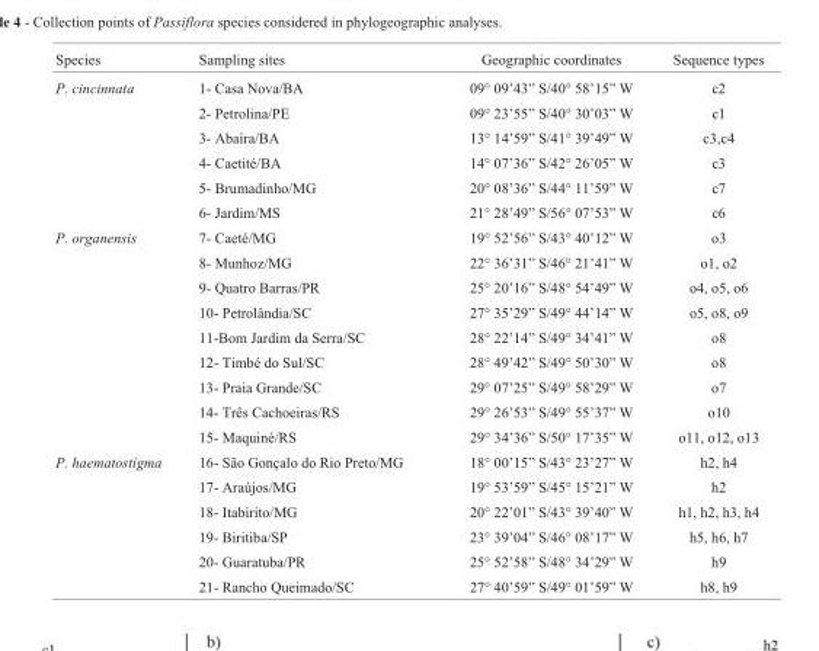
<table><thead><tr><td>Species</td><td>Sampling sites</td><td>Geographic coordinates</td><td>Sequence types</td></tr></thead><tbody><tr><td rowspan="6">P. cincinnata</td><td>1- Casa Nova/BA</td><td>09° 09’43” S/40° 58’15” W</td><td>c2</td></tr><tr><td>2- Petrolina/PE</td><td>09° 23’55” S/40° 30’03” W</td><td>c1</td></tr><tr><td>3- Abaíra/BA</td><td>13° 14’59” S/41° 39’49” W</td><td>c3,c4</td></tr><tr><td>4- Caetité/BA</td><td>14° 07’36” S/42° 26’05” W</td><td>c3</td></tr><tr><td>5- Brumadinho/MG</td><td>20° 08’36” S/44° 11’59” W</td><td>c7</td></tr><tr><td>6- Jardim/MS</td><td>21° 28’49” S/56° 07’53” W</td><td>c6</td></tr><tr><td rowspan="9">P. organensis</td><td>7- Caeté/MG</td><td>19° 52’56” S/43° 40’12” W</td><td>o3</td></tr><tr><td>8- Munhoz/MG</td><td>22° 36’31” S/46° 21’41” W</td><td>o1, o2</td></tr><tr><td>9- Quatro Barras/PR</td><td>25° 20’16” S/48° 54’49” W</td><td>o4, o5, o6</td></tr><tr><td>10- Petrolândia/SC</td><td>27° 35’29” S/49° 44’14” W</td><td>o5, o8, o9</td></tr><tr><td>11-Bom Jardim da Serra/SC</td><td>28° 22’14” S/49° 34’41” W</td><td>o8</td></tr><tr><td>12- Timbé do Sul/SC</td><td>28° 49’42” S/49° 50’30” W</td><td>o8</td></tr><tr><td>13- Praia Grande/SC</td><td>29° 07’25” S/49° 58’29” W</td><td>o7</td></tr><tr><td>14- Três Cachoeiras/RS</td><td>29° 26’53” S/49° 55’37” W</td><td>o10</td></tr><tr><td>15- Maquiné/RS</td><td>29° 34’36” S/50° 17’35” W</td><td>o11, o12, o13</td></tr><tr><td rowspan="6">P. haematostigma</td><td>16- São Gonçalo do Rio Preto/MG</td><td>18° 00’15” S/43° 23’27” W</td><td>h2, h4</td></tr><tr><td>17- Araújos/MG</td><td>19° 53’59” S/45° 15’21” W</td><td>h2</td></tr><tr><td>18- Itabirito/MG</td><td>20° 22’01” S/43° 39’40” W</td><td>h1, h2, h3, h4</td></tr><tr><td>19- Biritiba/SP</td><td>23° 39’04” S/46° 08’17” W</td><td>h5, h6, h7</td></tr><tr><td>20- Guaratuba/PR</td><td>25° 52’58” S/48° 34’29” W</td><td>h9</td></tr><tr><td>21- Rancho Queimado/SC</td><td>27° 40’59” S/49° 01’59” W</td><td>h8, h9</td></tr></tbody></table>